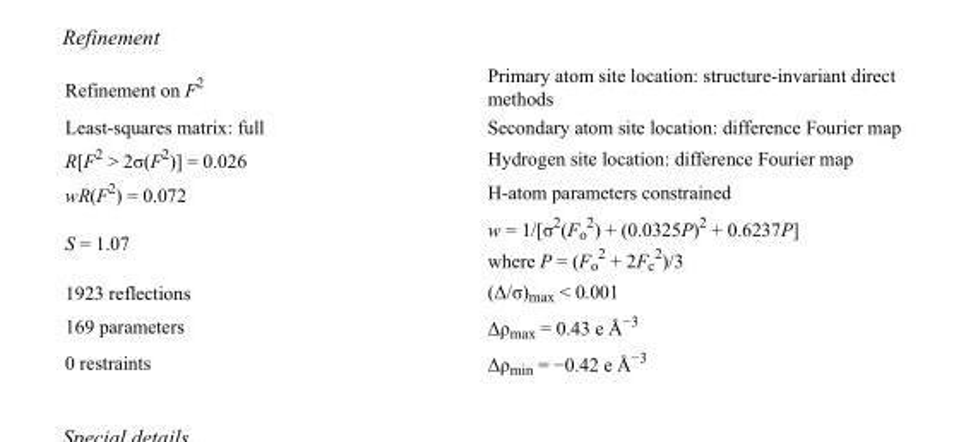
<table><tbody><tr><td>Refinement on F<sup>2</sup></td><td>Primary atom site location: structure-invariant direct methods</td></tr><tr><td>Least-squares matrix: full</td><td>Secondary atom site location: difference Fourier map</td></tr><tr><td>R[F<sup>2</sup> &gt; 2σ(F<sup>2</sup>)] = 0.026</td><td>Hydrogen site location: difference Fourier map</td></tr><tr><td>wR(F<sup>2</sup>) = 0.072</td><td>H-atom parameters constrained</td></tr><tr><td>S = 1.07</td><td>w = 1/[σ<sup>2</sup>(F<sub>o</sub> <sup>2</sup>) + (0.0325P)<sup>2</sup> + 0.6237P] where P = (F<sub>o</sub> <sup>2</sup> + 2F<sub>c</sub> <sup>2</sup>)/3</td></tr><tr><td>1923 reflections</td><td>(Δ/σ)<sub>max</sub> &lt; 0.001</td></tr><tr><td>169 parameters</td><td>Δρ<sub>max</sub> = 0.43 e Å<sup>−3</sup></td></tr><tr><td>0 restraints</td><td>Δρ<sub>min</sub> = −0.42 e Å<sup>−3</sup></td></tr></tbody></table>